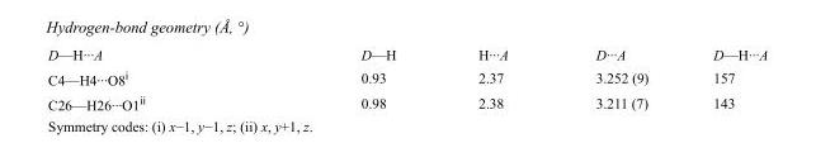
<table><tbody><tr><td>D—H···A</td><td>D—H</td><td>H···A</td><td>D···A</td><td>D—H···A</td></tr><tr><td>C4—H4···O8<sup>i</sup></td><td>0.93</td><td>2.37</td><td>3.252 (9)</td><td>157</td></tr><tr><td>C26—H26···O1<sup>ii</sup></td><td>0.98</td><td>2.38</td><td>3.211 (7)</td><td>143</td></tr></tbody></table>